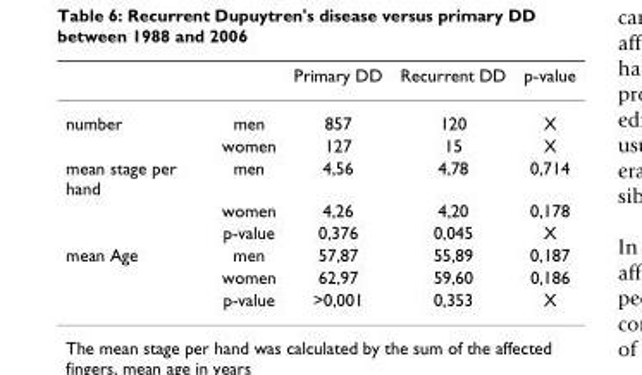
<table><thead><tr><td></td><td></td><td>Primary DD</td><td>Recurrent DD</td><td>p-value</td></tr></thead><tbody><tr><td rowspan="2">number</td><td>men</td><td>857</td><td>120</td><td>X</td></tr><tr><td>women</td><td>127</td><td>15</td><td>X</td></tr><tr><td rowspan="3">mean stage per hand</td><td>men</td><td>4,56</td><td>4,78</td><td>0,714</td></tr><tr><td>women</td><td>4,26</td><td>4,20</td><td>0,178</td></tr><tr><td>p-value</td><td>0,376</td><td>0,045</td><td>X</td></tr><tr><td rowspan="3">mean Age</td><td>men</td><td>57,87</td><td>55,89</td><td>0,187</td></tr><tr><td>women</td><td>62,97</td><td>59,60</td><td>0,186</td></tr><tr><td>p-value</td><td>&gt;0,001</td><td>0,353</td><td>X</td></tr></tbody></table>